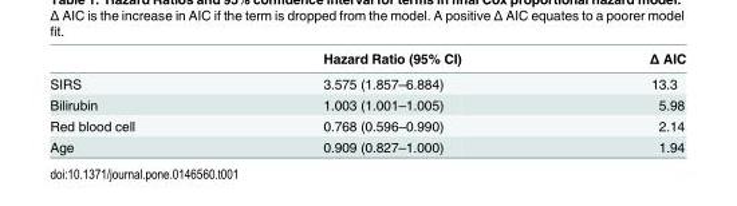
<table><thead><tr><td></td><td>Hazard Ratio (95% CI)</td><td>Δ AIC</td></tr></thead><tbody><tr><td>SIRS</td><td>3.575 (1.857–6.884)</td><td>13.3</td></tr><tr><td>Bilirubin</td><td>1.003 (1.001–1.005)</td><td>5.98</td></tr><tr><td>Red blood cell</td><td>0.768 (0.596–0.990)</td><td>2.14</td></tr><tr><td>Age</td><td>0.909 (0.827–1.000)</td><td>1.94</td></tr></tbody></table>